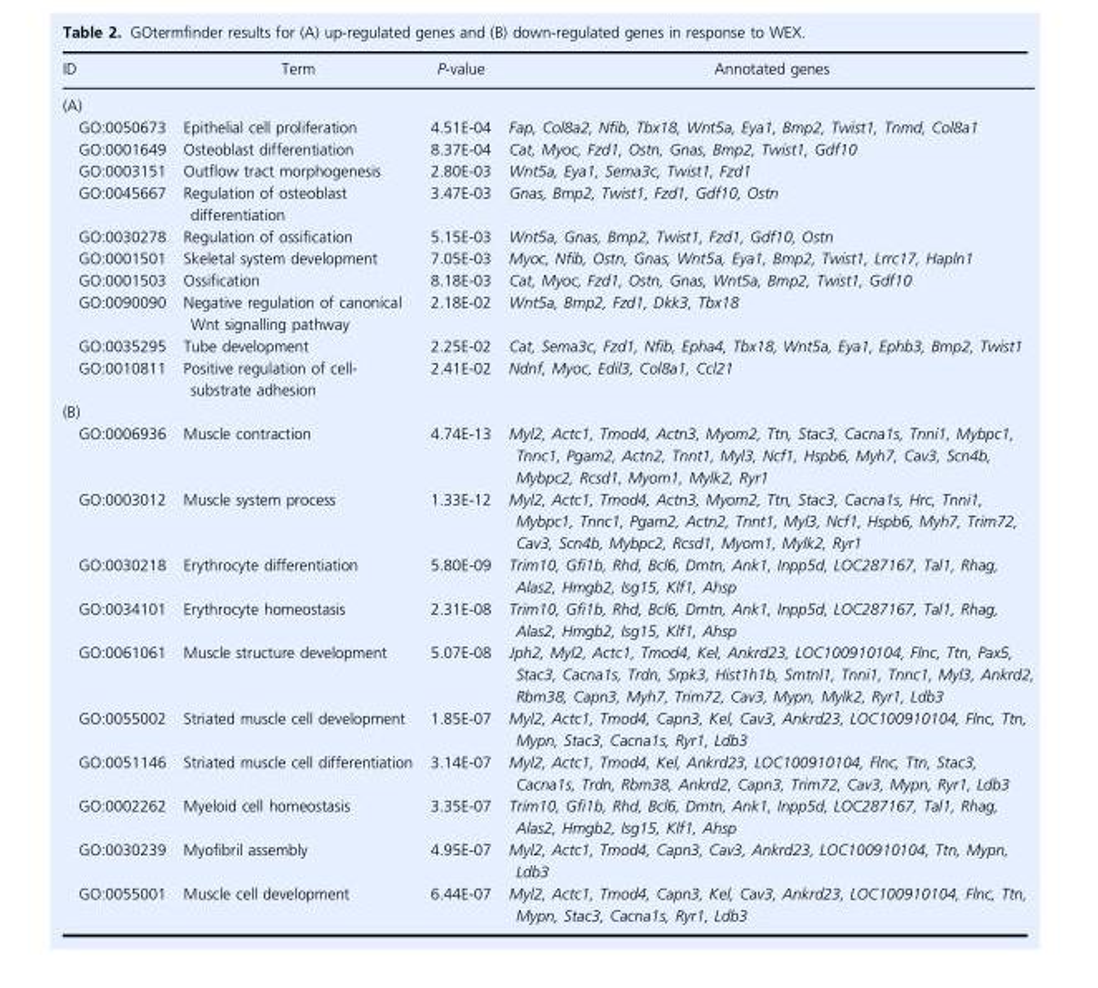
<table><thead><tr><td>ID</td><td>Term</td><td>P-value</td><td>Annotated genes</td></tr></thead><tbody><tr><td colspan="4">(A)</td></tr><tr><td>GO:0050673</td><td>Epithelial cell proliferation</td><td>4.51E-04</td><td>Fap, Col8a2, Nfib, Tbx18, Wnt5a, Eya1, Bmp2, Twist1, Tnmd, Col8a1</td></tr><tr><td>GO:0001649</td><td>Osteoblast differentiation</td><td>8.37E-04</td><td>Cat, Myoc, Fzd1, Ostn, Gnas, Bmp2, Twist1, Gdf10</td></tr><tr><td>GO:0003151</td><td>Outflow tract morphogenesis</td><td>2.80E-03</td><td>Wnt5a, Eya1, Sema3c, Twist1, Fzd1</td></tr><tr><td>GO:0045667</td><td>Regulation of osteoblast differentiation</td><td>3.47E-03</td><td>Gnas, Bmp2, Twist1, Fzd1, Gdf10, Ostn</td></tr><tr><td>GO:0030278</td><td>Regulation of ossification</td><td>5.15E-03</td><td>Wnt5a, Gnas, Bmp2, Twist1, Fzd1, Gdf10, Ostn</td></tr><tr><td>GO:0001501</td><td>Skeletal system development</td><td>7.05E-03</td><td>Myoc, Nfib, Ostn, Gnas, Wnt5a, Eya1, Bmp2, Twist1, Lrrc17, Hapln1</td></tr><tr><td>GO:0001503</td><td>Ossification</td><td>8.18E-03</td><td>Cat, Myoc, Fzd1, Ostn, Gnas, Wnt5a, Bmp2, Twist1, Gdf10</td></tr><tr><td>GO:0090090</td><td>Negative regulation of canonical Wnt signalling pathway</td><td>2.18E-02</td><td>Wnt5a, Bmp2, Fzd1, Dkk3, Tbx18</td></tr><tr><td>GO:0035295</td><td>Tube development</td><td>2.25E-02</td><td>Cat, Sema3c, Fzd1, Nfib, Epha4, Tbx18, Wnt5a, Eya1, Ephb3, Bmp2, Twist1</td></tr><tr><td>GO:0010811</td><td>Positive regulation of cell- substrate adhesion</td><td>2.41E-02</td><td>Ndnf, Myoc, Edil3, Col8a1, Ccl21</td></tr><tr><td colspan="4">(B)</td></tr><tr><td>GO:0006936</td><td>Muscle contraction</td><td>4.74E-13</td><td>Myl2, Actc1, Tmod4, Actn3, Myom2, Ttn, Stac3, Cacna1s, Tnni1, Mybpc1, Tnnc1, Pgam2, Actn2, Tnnt1, Myl3, Ncf1, Hspb6, Myh7, Cav3, Scn4b, Mybpc2, Rcsd1, Myom1, Mylk2, Ryr1</td></tr><tr><td>GO:0003012</td><td>Muscle system process</td><td>1.33E-12</td><td>Myl2, Actc1, Tmod4, Actn3, Myom2, Ttn, Stac3, Cacna1s, Hrc, Tnni1, Mybpc1, Tnnc1, Pgam2, Actn2, Tnnt1, Myl3, Ncf1, Hspb6, Myh7, Trim72, Cav3, Scn4b, Mybpc2, Rcsd1, Myom1, Mylk2, Ryr1</td></tr><tr><td>GO:0030218</td><td>Erythrocyte differentiation</td><td>5.80E-09</td><td>Trim10, Gfi1b, Rhd, Bcl6, Dmtn, Ank1, Inpp5d, LOC287167, Tal1, Rhag, Alas2, Hmgb2, Isg15, Klf1, Ahsp</td></tr><tr><td>GO:0034101</td><td>Erythrocyte homeostasis</td><td>2.31E-08</td><td>Trim10, Gfi1b, Rhd, Bcl6, Dmtn, Ank1, Inpp5d, LOC287167, Tal1, Rhag, Alas2, Hmgb2, Isg15, Klf1, Ahsp</td></tr><tr><td>GO:0061061</td><td>Muscle structure development</td><td>5.07E-08</td><td>Jph2, Myl2, Actc1, Tmod4, Kel, Ankrd23, LOC100910104, Flnc, Ttn, Pax5, Stac3, Cacna1s, Trdn, Srpk3, Hist1h1b, Smtnl1, Tnni1, Tnnc1, Myl3, Ankrd2, Rbm38, Capn3, Myh7, Trim72, Cav3, Mypn, Mylk2, Ryr1, Ldb3</td></tr><tr><td>GO:0055002</td><td>Striated muscle cell development</td><td>1.85E-07</td><td>Myl2, Actc1, Tmod4, Capn3, Kel, Cav3, Ankrd23, LOC100910104, Flnc, Ttn, Mypn, Stac3, Cacna1s, Ryr1, Ldb3</td></tr><tr><td>GO:0051146</td><td>Striated muscle cell differentiation</td><td>3.14E-07</td><td>Myl2, Actc1, Tmod4, Kel, Ankrd23, LOC100910104, Flnc, Ttn, Stac3, Cacna1s, Trdn, Rbm38, Ankrd2, Capn3, Trim72, Cav3, Mypn, Ryr1, Ldb3</td></tr><tr><td>GO:0002262</td><td>Myeloid cell homeostasis</td><td>3.35E-07</td><td>Trim10, Gfi1b, Rhd, Bcl6, Dmtn, Ank1, Inpp5d, LOC287167, Tal1, Rhag, Alas2, Hmgb2, Isg15, Klf1, Ahsp</td></tr><tr><td>GO:0030239</td><td>Myofibril assembly</td><td>4.95E-07</td><td>Myl2, Actc1, Tmod4, Capn3, Cav3, Ankrd23, LOC100910104, Ttn, Mypn, Ldb3</td></tr><tr><td>GO:0055001</td><td>Muscle cell development</td><td>6.44E-07</td><td>Myl2, Actc1, Tmod4, Capn3, Kel, Cav3, Ankrd23, LOC100910104, Flnc, Ttn, Mypn, Stac3, Cacna1s, Ryr1, Ldb3</td></tr></tbody></table>